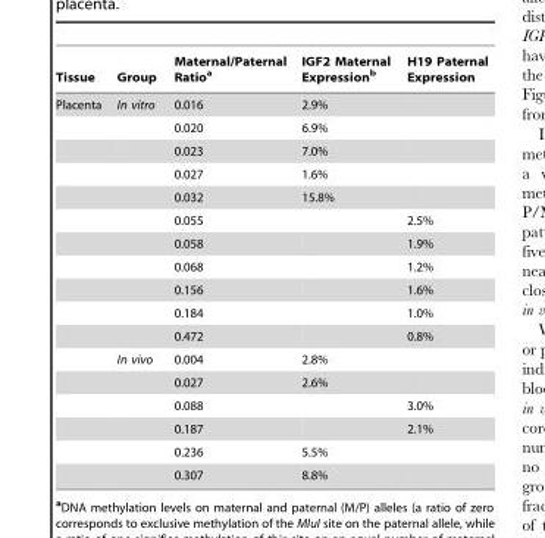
<table><thead><tr><td>Tissue</td><td>Group</td><td>Maternal/Paternal Ratio<sup>a</sup></td><td>IGF2 Maternal Expression<sup>b</sup></td><td>H19 Paternal Expression</td></tr></thead><tbody><tr><td rowspan="17">Placenta</td><td>In vitro</td><td>0.016</td><td>2.9%</td><td></td></tr><tr><td></td><td>0.020</td><td>6.9%</td><td></td></tr><tr><td></td><td>0.023</td><td>7.0%</td><td></td></tr><tr><td></td><td>0.027</td><td>1.6%</td><td></td></tr><tr><td></td><td>0.032</td><td>15.8%</td><td></td></tr><tr><td></td><td>0.055</td><td></td><td>2.5%</td></tr><tr><td></td><td>0.058</td><td></td><td>1.9%</td></tr><tr><td></td><td>0.068</td><td></td><td>1.2%</td></tr><tr><td></td><td>0.156</td><td></td><td>1.6%</td></tr><tr><td></td><td>0.184</td><td></td><td>1.0%</td></tr><tr><td></td><td>0.472</td><td></td><td>0.8%</td></tr><tr><td>In vivo</td><td>0.004</td><td>2.8%</td><td></td></tr><tr><td></td><td>0.027</td><td>2.6%</td><td></td></tr><tr><td></td><td>0.088</td><td></td><td>3.0%</td></tr><tr><td></td><td>0.187</td><td></td><td>2.1%</td></tr><tr><td></td><td>0.236</td><td>5.5%</td><td></td></tr><tr><td></td><td>0.307</td><td>8.8%</td><td></td></tr></tbody></table>